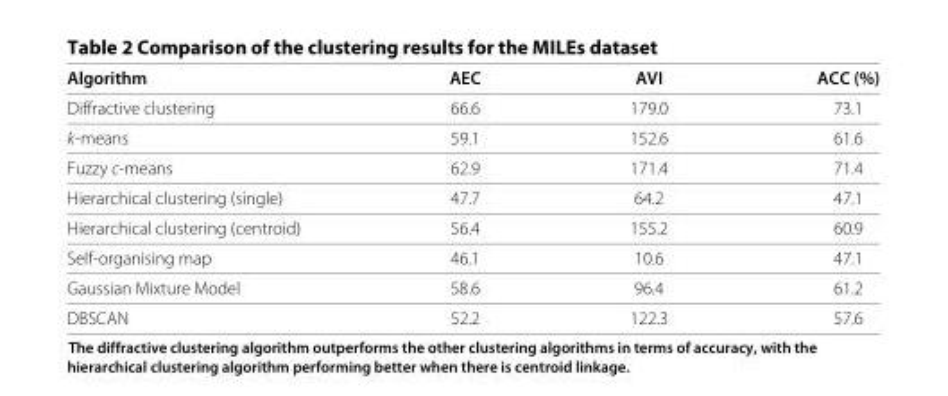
<table><thead><tr><td>Algorithm</td><td>AEC</td><td>AVI</td><td>ACC (%)</td></tr></thead><tbody><tr><td>Diffractive clustering</td><td>66.6</td><td>179.0</td><td>73.1</td></tr><tr><td>k-means</td><td>59.1</td><td>152.6</td><td>61.6</td></tr><tr><td>Fuzzy c-means</td><td>62.9</td><td>171.4</td><td>71.4</td></tr><tr><td>Hierarchical clustering (single)</td><td>47.7</td><td>64.2</td><td>47.1</td></tr><tr><td>Hierarchical clustering (centroid)</td><td>56.4</td><td>155.2</td><td>60.9</td></tr><tr><td>Self-organising map</td><td>46.1</td><td>10.6</td><td>47.1</td></tr><tr><td>Gaussian Mixture Model</td><td>58.6</td><td>96.4</td><td>61.2</td></tr><tr><td>DBSCAN</td><td>52.2</td><td>122.3</td><td>57.6</td></tr></tbody></table>